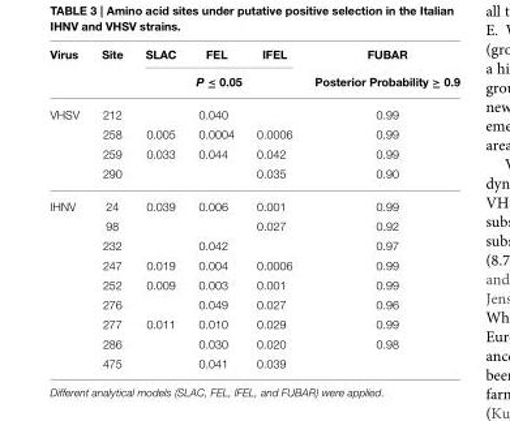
<table><thead><tr><td rowspan="2">Virus</td><td rowspan="2">Site</td><td>SLAC</td><td>FEL</td><td>IFEL</td><td rowspan="2">FUBAR Posterior Probability ≥ 0.9</td></tr><tr><td colspan="3">P ≤ 0.05</td></tr></thead><tbody><tr><td rowspan="4">VHSV</td><td>212</td><td></td><td>0.040</td><td></td><td>0.99</td></tr><tr><td>258</td><td>0.005</td><td>0.0004</td><td>0.0006</td><td>0.99</td></tr><tr><td>259</td><td>0.033</td><td>0.044</td><td>0.042</td><td>0.99</td></tr><tr><td>290</td><td></td><td></td><td>0.035</td><td>0.90</td></tr><tr><td rowspan="9">IHNV</td><td>24</td><td>0.039</td><td>0.006</td><td>0.001</td><td>0.99</td></tr><tr><td>98</td><td></td><td></td><td>0.027</td><td>0.92</td></tr><tr><td>232</td><td></td><td>0.042</td><td></td><td>0.97</td></tr><tr><td>247</td><td>0.019</td><td>0.004</td><td>0.0006</td><td>0.99</td></tr><tr><td>252</td><td>0.009</td><td>0.003</td><td>0.001</td><td>0.99</td></tr><tr><td>276</td><td></td><td>0.049</td><td>0.027</td><td>0.96</td></tr><tr><td>277</td><td>0.011</td><td>0.010</td><td>0.029</td><td>0.99</td></tr><tr><td>286</td><td></td><td>0.030</td><td>0.020</td><td>0.98</td></tr><tr><td>475</td><td></td><td>0.041</td><td>0.039</td><td></td></tr></tbody></table>